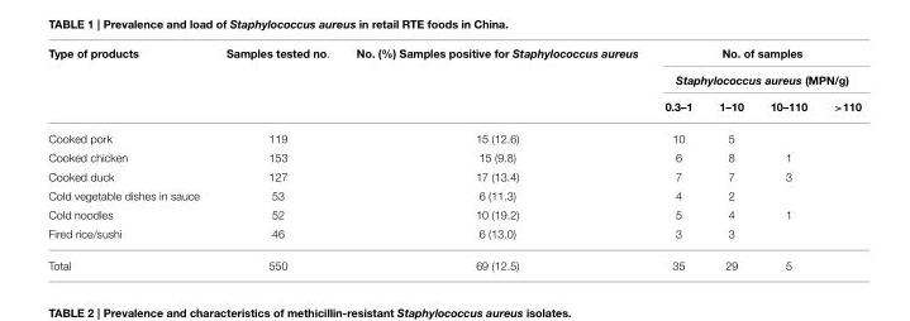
<table><thead><tr><td rowspan="3">Type of products</td><td rowspan="3">Samples tested no.</td><td rowspan="3">No. (%) Samples positive for Staphylococcus aureus</td><td rowspan="2" colspan="4">No. of samples Staphylococcus aureus (MPN/g)</td></tr><tr></tr><tr><td>0.3–1</td><td>1–10</td><td>10–110</td><td>&gt;110</td></tr></thead><tbody><tr><td>Cooked pork</td><td>119</td><td>15 (12.6)</td><td>10</td><td>5</td><td></td><td></td></tr><tr><td>Cooked chicken</td><td>153</td><td>15 (9.8)</td><td>6</td><td>8</td><td>1</td><td></td></tr><tr><td>Cooked duck</td><td>127</td><td>17 (13.4)</td><td>7</td><td>7</td><td>3</td><td></td></tr><tr><td>Cold vegetable dishes in sauce</td><td>53</td><td>6 (11.3)</td><td>4</td><td>2</td><td></td><td></td></tr><tr><td>Cold noodles</td><td>52</td><td>10 (19.2)</td><td>5</td><td>4</td><td>1</td><td></td></tr><tr><td>Fired rice/sushi</td><td>46</td><td>6 (13.0)</td><td>3</td><td>3</td><td></td><td></td></tr><tr><td>Total</td><td>550</td><td>69 (12.5)</td><td>35</td><td>29</td><td>5</td><td></td></tr></tbody></table>